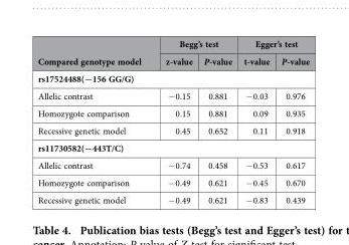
<table><thead><tr><td rowspan="2">Compared genotype model</td><td colspan="2">Begg’s test</td><td colspan="2">Egger’s test</td></tr><tr><td>z-value</td><td>P-value</td><td>t-value</td><td>P-value</td></tr></thead><tbody><tr><td colspan="5">rs17524488(−156 GG/G)</td></tr><tr><td>Allelic contrast</td><td>− 0.15</td><td>0.881</td><td>− 0.03</td><td>0.976</td></tr><tr><td>Homozygote comparison</td><td>0.15</td><td>0.881</td><td>0.09</td><td>0.935</td></tr><tr><td>Recessive genetic model</td><td>0.45</td><td>0.652</td><td>0.11</td><td>0.918</td></tr><tr><td colspan="5">rs11730582(−443T/C)</td></tr><tr><td>Allelic contrast</td><td>− 0.74</td><td>0.458</td><td>− 0.53</td><td>0.617</td></tr><tr><td>Homozygote comparison</td><td>− 0.49</td><td>0.621</td><td>− 0.45</td><td>0.670</td></tr><tr><td>Recessive genetic model</td><td>− 0.49</td><td>0.621</td><td>− 0.83</td><td>0.439</td></tr></tbody></table>